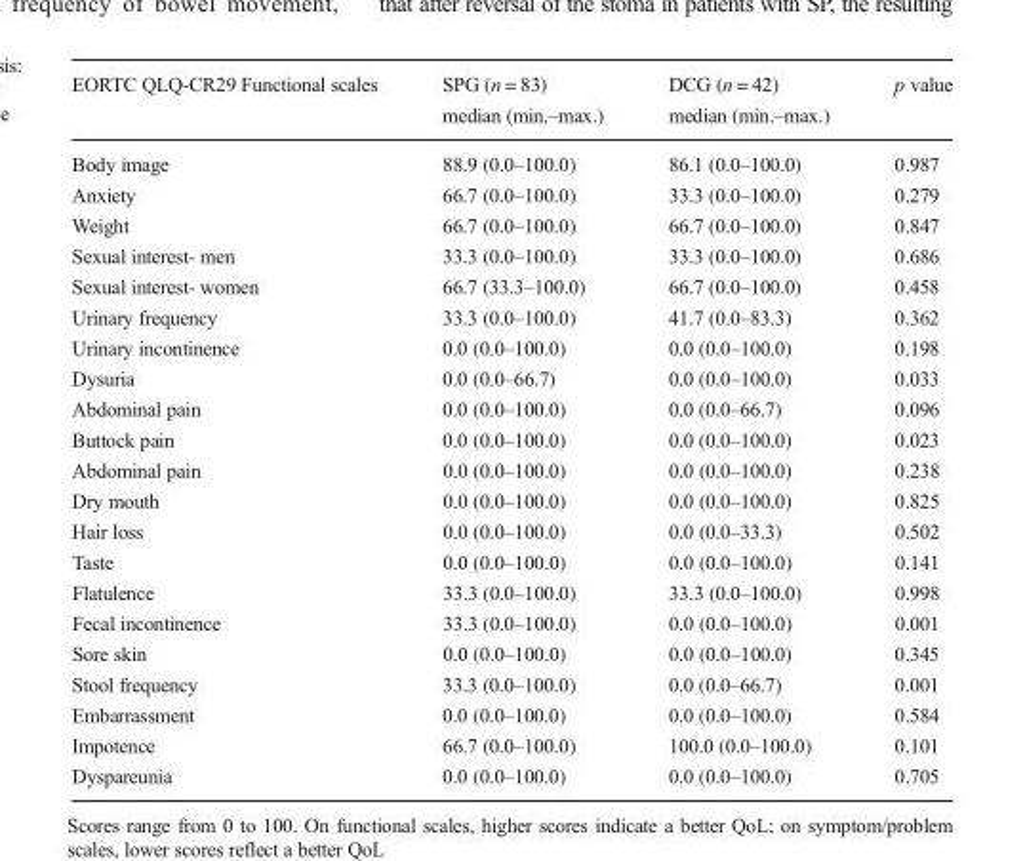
<table><thead><tr><td>EORTC QLQ-CR29 Functional scales</td><td>SPG (n = 83) median (min.–max.)</td><td>DCG (n = 42) median (min.–max.)</td><td>p value</td></tr></thead><tbody><tr><td>Body image</td><td>88.9 (0.0–100.0)</td><td>86.1 (0.0–100.0)</td><td>0.987</td></tr><tr><td>Anxiety</td><td>66.7 (0.0–100.0)</td><td>33.3 (0.0–100.0)</td><td>0.279</td></tr><tr><td>Weight</td><td>66.7 (0.0–100.0)</td><td>66.7 (0.0–100.0)</td><td>0.847</td></tr><tr><td>Sexual interest- men</td><td>33.3 (0.0–100.0)</td><td>33.3 (0.0–100.0)</td><td>0.686</td></tr><tr><td>Sexual interest- women</td><td>66.7 (33.3–100.0)</td><td>66.7 (0.0–100.0)</td><td>0.458</td></tr><tr><td>Urinary frequency</td><td>33.3 (0.0–100.0)</td><td>41.7 (0.0–83.3)</td><td>0.362</td></tr><tr><td>Urinary incontinence</td><td>0.0 (0.0–100.0)</td><td>0.0 (0.0–100.0)</td><td>0.198</td></tr><tr><td>Dysuria</td><td>0.0 (0.0–66.7)</td><td>0.0 (0.0–100.0)</td><td>0.033</td></tr><tr><td>Abdominal pain</td><td>0.0 (0.0–100.0)</td><td>0.0 (0.0–66.7)</td><td>0.096</td></tr><tr><td>Buttock pain</td><td>0.0 (0.0–100.0)</td><td>0.0 (0.0–100.0)</td><td>0.023</td></tr><tr><td>Abdominal pain</td><td>0.0 (0.0–100.0)</td><td>0.0 (0.0–100.0)</td><td>0.238</td></tr><tr><td>Dry mouth</td><td>0.0 (0.0–100.0)</td><td>0.0 (0.0–100.0)</td><td>0.825</td></tr><tr><td>Hair loss</td><td>0.0 (0.0–100.0)</td><td>0.0 (0.0–33.3)</td><td>0.502</td></tr><tr><td>Taste</td><td>0.0 (0.0–100.0)</td><td>0.0 (0.0–100.0)</td><td>0.141</td></tr><tr><td>Flatulence</td><td>33.3 (0.0–100.0)</td><td>33.3 (0.0–100.0)</td><td>0.998</td></tr><tr><td>Fecal incontinence</td><td>33.3 (0.0–100.0)</td><td>0.0 (0.0–100.0)</td><td>0.001</td></tr><tr><td>Sore skin</td><td>0.0 (0.0–100.0)</td><td>0.0 (0.0–100.0)</td><td>0.345</td></tr><tr><td>Stool frequency</td><td>33.3 (0.0–100.0)</td><td>0.0 (0.0–66.7)</td><td>0.001</td></tr><tr><td>Embarrassment</td><td>0.0 (0.0–100.0)</td><td>0.0 (0.0–100.0)</td><td>0.584</td></tr><tr><td>Impotence</td><td>66.7 (0.0–100.0)</td><td>100.0 (0.0–100.0)</td><td>0.101</td></tr><tr><td>Dyspareunia</td><td>0.0 (0.0–100.0)</td><td>0.0 (0.0–100.0)</td><td>0.705</td></tr></tbody></table>